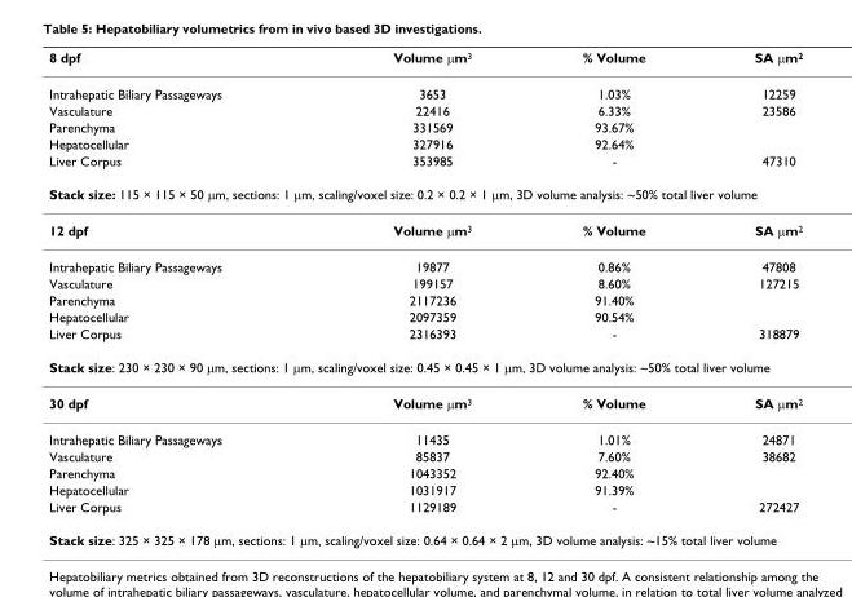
<table><thead><tr><td>8 dpf</td><td>Volume μm<sup>3</sup></td><td>% Volume</td><td>SA μm<sup>2</sup></td></tr></thead><tbody><tr><td>Intrahepatic Biliary Passageways</td><td>3653</td><td>1.03%</td><td>12259</td></tr><tr><td>Vasculature</td><td>22416</td><td>6.33%</td><td>23586</td></tr><tr><td>Parenchyma</td><td>331569</td><td>93.67%</td><td></td></tr><tr><td>Hepatocellular</td><td>327916</td><td>92.64%</td><td></td></tr><tr><td>Liver Corpus</td><td>353985</td><td>-</td><td>47310</td></tr><tr><td colspan="4">Stack size: 115 × 115 × 50 μm, sections: 1 μm, scaling/voxel size: 0.2 × 0.2 × 1 μm, 3D volume analysis: ~50% total liver volume</td></tr><tr><td>12 dpf</td><td>Volume μm<sup>3</sup></td><td>% Volume</td><td>SA μm<sup>2</sup></td></tr><tr><td>Intrahepatic Biliary Passageways</td><td>19877</td><td>0.86%</td><td>47808</td></tr><tr><td>Vasculature</td><td>199157</td><td>8.60%</td><td>127215</td></tr><tr><td>Parenchyma</td><td>2117236</td><td>91.40%</td><td></td></tr><tr><td>Hepatocellular</td><td>2097359</td><td>90.54%</td><td></td></tr><tr><td>Liver Corpus</td><td>2316393</td><td>-</td><td>318879</td></tr><tr><td colspan="4">Stack size: 230 × 230 × 90 μm, sections: 1 μm, scaling/voxel size: 0.45 × 0.45 × 1 μm, 3D volume analysis: ~50% total liver volume</td></tr><tr><td>30 dpf</td><td>Volume μm<sup>3</sup></td><td>% Volume</td><td>SA μm<sup>2</sup></td></tr><tr><td>Intrahepatic Biliary Passageways</td><td>11435</td><td>1.01%</td><td>24871</td></tr><tr><td>Vasculature</td><td>85837</td><td>7.60%</td><td>38682</td></tr><tr><td>Parenchyma</td><td>1043352</td><td>92.40%</td><td></td></tr><tr><td>Hepatocellular</td><td>1031917</td><td>91.39%</td><td></td></tr><tr><td>Liver Corpus</td><td>1129189</td><td>-</td><td>272427</td></tr><tr><td colspan="4">Stack size: 325 × 325 × 178 μm, sections: 1 μm, scaling/voxel size: 0.64 × 0.64 × 2 μm, 3D volume analysis: ~15% total liver volume</td></tr></tbody></table>